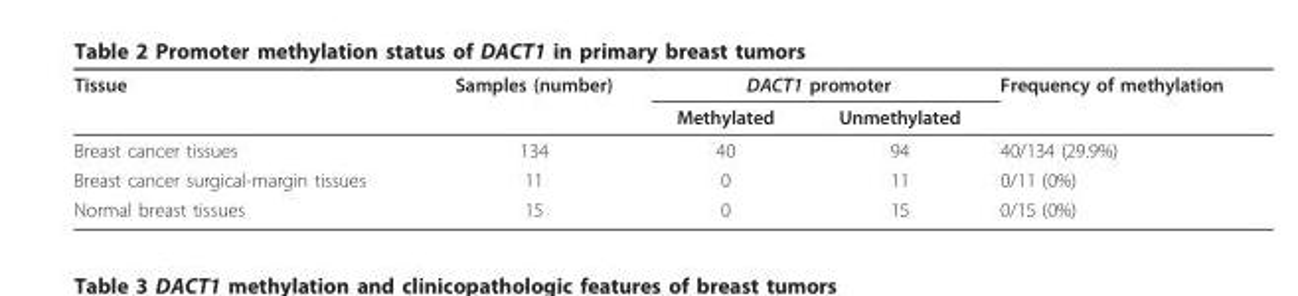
<table><thead><tr><td rowspan="2">Tissue</td><td rowspan="2">Samples (number)</td><td colspan="2">DACT1 promoter</td><td rowspan="2">Frequency of methylation</td></tr><tr><td>Methylated</td><td>Unmethylated</td></tr></thead><tbody><tr><td>Breast cancer tissues</td><td>134</td><td>40</td><td>94</td><td>40/134 (29.9%)</td></tr><tr><td>Breast cancer surgical-margin tissues</td><td>11</td><td>0</td><td>11</td><td>0/11 (0%)</td></tr><tr><td>Normal breast tissues</td><td>15</td><td>0</td><td>15</td><td>0/15 (0%)</td></tr></tbody></table>